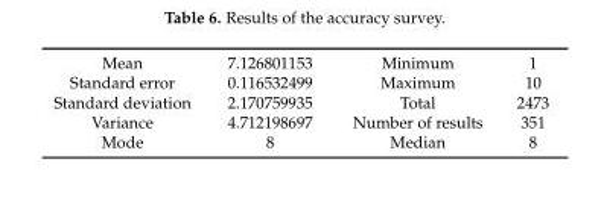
<table><tbody><tr><td>Mean</td><td>7.126801153</td><td>Minimum</td><td>1</td></tr><tr><td>Standard error</td><td>0.116532499</td><td>Maximum</td><td>10</td></tr><tr><td>Standard deviation</td><td>2.170759935</td><td>Total</td><td>2473</td></tr><tr><td>Variance</td><td>4.712198697</td><td>Number of results</td><td>351</td></tr><tr><td>Mode</td><td>8</td><td>Median</td><td>8</td></tr></tbody></table>